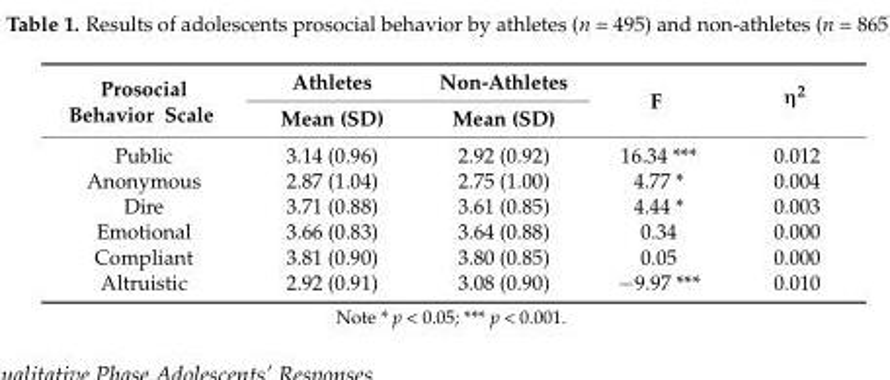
<table><thead><tr><td rowspan="2">Prosocial Behavior Scale</td><td rowspan="2">Athletes Mean (SD)</td><td rowspan="2">Non-Athletes Mean (SD)</td><td rowspan="2">F</td><td rowspan="2">η<sup>2</sup></td></tr><tr></tr></thead><tbody><tr><td>Public</td><td>3.14 (0.96)</td><td>2.92 (0.92)</td><td>16.34 ***</td><td>0.012</td></tr><tr><td>Anonymous</td><td>2.87 (1.04)</td><td>2.75 (1.00)</td><td>4.77 *</td><td>0.004</td></tr><tr><td>Dire</td><td>3.71 (0.88)</td><td>3.61 (0.85)</td><td>4.44 *</td><td>0.003</td></tr><tr><td>Emotional</td><td>3.66 (0.83)</td><td>3.64 (0.88)</td><td>0.34</td><td>0.000</td></tr><tr><td>Compliant</td><td>3.81 (0.90)</td><td>3.80 (0.85)</td><td>0.05</td><td>0.000</td></tr><tr><td>Altruistic</td><td>2.92 (0.91)</td><td>3.08 (0.90)</td><td>−9.97 ***</td><td>0.010</td></tr></tbody></table>